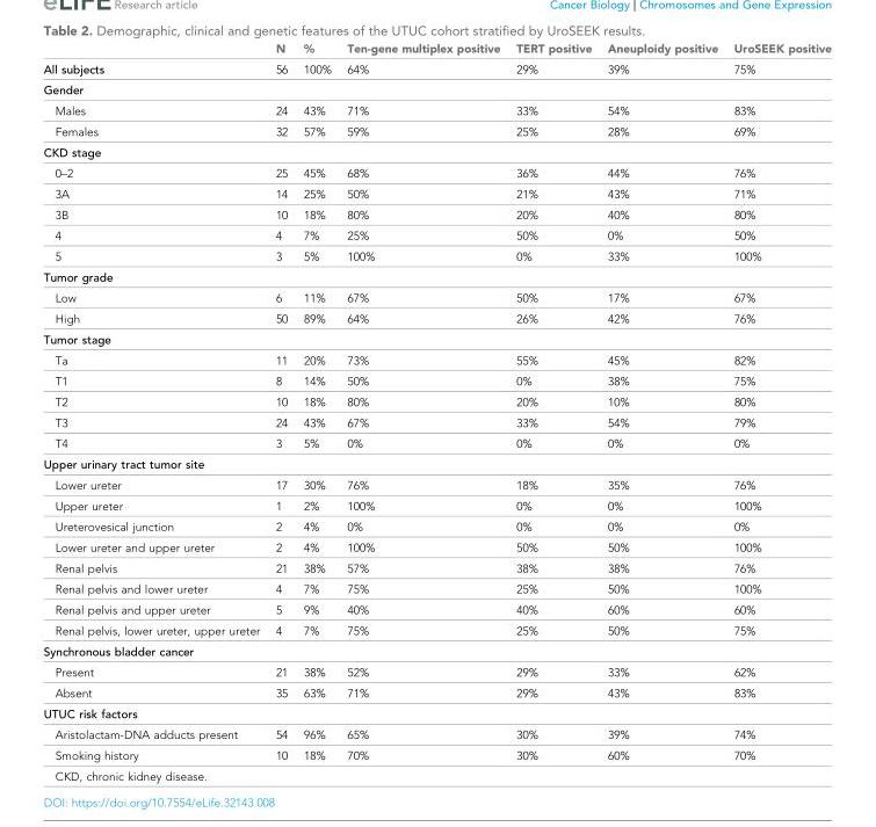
<table><thead><tr><td></td><td>N</td><td>%</td><td>Ten-gene multiplex positive</td><td>TERT positive</td><td>Aneuploidy positive</td><td>UroSEEK positive</td></tr></thead><tbody><tr><td>All subjects</td><td>56</td><td>100%</td><td>64%</td><td>29%</td><td>39%</td><td>75%</td></tr><tr><td colspan="7">Gender</td></tr><tr><td>Males</td><td>24</td><td>43%</td><td>71%</td><td>33%</td><td>54%</td><td>83%</td></tr><tr><td>Females</td><td>32</td><td>57%</td><td>59%</td><td>25%</td><td>28%</td><td>69%</td></tr><tr><td colspan="7">CKD stage</td></tr><tr><td>0–2</td><td>25</td><td>45%</td><td>68%</td><td>36%</td><td>44%</td><td>76%</td></tr><tr><td>3A</td><td>14</td><td>25%</td><td>50%</td><td>21%</td><td>43%</td><td>71%</td></tr><tr><td>3B</td><td>10</td><td>18%</td><td>80%</td><td>20%</td><td>40%</td><td>80%</td></tr><tr><td>4</td><td>4</td><td>7%</td><td>25%</td><td>50%</td><td>0%</td><td>50%</td></tr><tr><td>5</td><td>3</td><td>5%</td><td>100%</td><td>0%</td><td>33%</td><td>100%</td></tr><tr><td colspan="7">Tumor grade</td></tr><tr><td>Low</td><td>6</td><td>11%</td><td>67%</td><td>50%</td><td>17%</td><td>67%</td></tr><tr><td>High</td><td>50</td><td>89%</td><td>64%</td><td>26%</td><td>42%</td><td>76%</td></tr><tr><td colspan="7">Tumor stage</td></tr><tr><td>Ta</td><td>11</td><td>20%</td><td>73%</td><td>55%</td><td>45%</td><td>82%</td></tr><tr><td>T1</td><td>8</td><td>14%</td><td>50%</td><td>0%</td><td>38%</td><td>75%</td></tr><tr><td>T2</td><td>10</td><td>18%</td><td>80%</td><td>20%</td><td>10%</td><td>80%</td></tr><tr><td>T3</td><td>24</td><td>43%</td><td>67%</td><td>33%</td><td>54%</td><td>79%</td></tr><tr><td>T4</td><td>3</td><td>5%</td><td>0%</td><td>0%</td><td>0%</td><td>0%</td></tr><tr><td colspan="7">Upper urinary tract tumor site</td></tr><tr><td>Lower ureter</td><td>17</td><td>30%</td><td>76%</td><td>18%</td><td>35%</td><td>76%</td></tr><tr><td>Upper ureter</td><td>1</td><td>2%</td><td>100%</td><td>0%</td><td>0%</td><td>100%</td></tr><tr><td>Ureterovesical junction</td><td>2</td><td>4%</td><td>0%</td><td>0%</td><td>0%</td><td>0%</td></tr><tr><td>Lower ureter and upper ureter</td><td>2</td><td>4%</td><td>100%</td><td>50%</td><td>50%</td><td>100%</td></tr><tr><td>Renal pelvis</td><td>21</td><td>38%</td><td>57%</td><td>38%</td><td>38%</td><td>76%</td></tr><tr><td>Renal pelvis and lower ureter</td><td>4</td><td>7%</td><td>75%</td><td>25%</td><td>50%</td><td>100%</td></tr><tr><td>Renal pelvis and upper ureter</td><td>5</td><td>9%</td><td>40%</td><td>40%</td><td>60%</td><td>60%</td></tr><tr><td>Renal pelvis, lower ureter, upper ureter</td><td>4</td><td>7%</td><td>75%</td><td>25%</td><td>50%</td><td>75%</td></tr><tr><td colspan="7">Synchronous bladder cancer</td></tr><tr><td>Present</td><td>21</td><td>38%</td><td>52%</td><td>29%</td><td>33%</td><td>62%</td></tr><tr><td>Absent</td><td>35</td><td>63%</td><td>71%</td><td>29%</td><td>43%</td><td>83%</td></tr><tr><td colspan="7">UTUC risk factors</td></tr><tr><td>Aristolactam-DNA adducts present</td><td>54</td><td>96%</td><td>65%</td><td>30%</td><td>39%</td><td>74%</td></tr><tr><td>Smoking history</td><td>10</td><td>18%</td><td>70%</td><td>30%</td><td>60%</td><td>70%</td></tr><tr><td>CKD, chronic kidney disease.</td><td></td><td></td><td></td><td></td><td></td><td></td></tr></tbody></table>